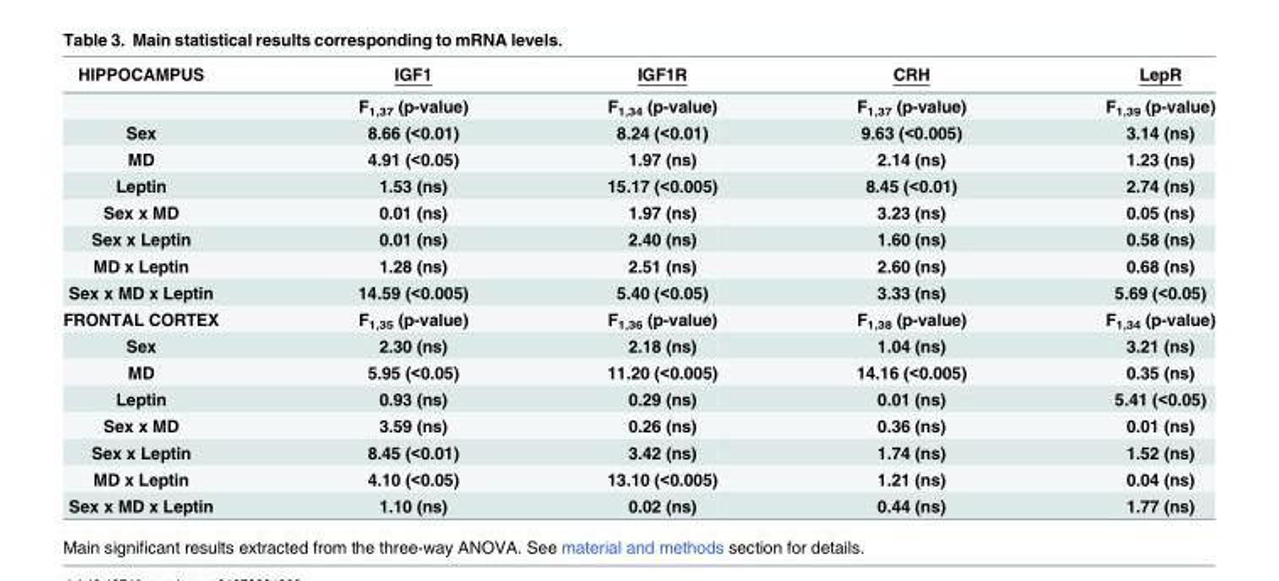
<table><thead><tr><td>HIPPOCAMPUS</td><td>IGF1</td><td>IGF1R</td><td>CRH</td><td>LepR</td></tr></thead><tbody><tr><td></td><td>F<sub>1,37</sub> (p-value)</td><td>F<sub>1,34</sub> (p-value)</td><td>F<sub>1,37</sub> (p-value)</td><td>F<sub>1,39</sub> (p-value)</td></tr><tr><td>Sex</td><td>8.66 (&lt;0.01)</td><td>8.24 (&lt;0.01)</td><td>9.63 (&lt;0.005)</td><td>3.14 (ns)</td></tr><tr><td>MD</td><td>4.91 (&lt;0.05)</td><td>1.97 (ns)</td><td>2.14 (ns)</td><td>1.23 (ns)</td></tr><tr><td>Leptin</td><td>1.53 (ns)</td><td>15.17 (&lt;0.005)</td><td>8.45 (&lt;0.01)</td><td>2.74 (ns)</td></tr><tr><td>Sex x MD</td><td>0.01 (ns)</td><td>1.97 (ns)</td><td>3.23 (ns)</td><td>0.05 (ns)</td></tr><tr><td>Sex x Leptin</td><td>0.01 (ns)</td><td>2.40 (ns)</td><td>1.60 (ns)</td><td>0.58 (ns)</td></tr><tr><td>MD x Leptin</td><td>1.28 (ns)</td><td>2.51 (ns)</td><td>2.60 (ns)</td><td>0.68 (ns)</td></tr><tr><td>Sex x MD x Leptin</td><td>14.59 (&lt;0.005)</td><td>5.40 (&lt;0.05)</td><td>3.33 (ns)</td><td>5.69 (&lt;0.05)</td></tr><tr><td>FRONTAL CORTEX</td><td>F<sub>1,35</sub> (p-value)</td><td>F<sub>1,36</sub> (p-value)</td><td>F<sub>1,38</sub> (p-value)</td><td>F<sub>1,34</sub> (p-value)</td></tr><tr><td>Sex</td><td>2.30 (ns)</td><td>2.18 (ns)</td><td>1.04 (ns)</td><td>3.21 (ns)</td></tr><tr><td>MD</td><td>5.95 (&lt;0.05)</td><td>11.20 (&lt;0.005)</td><td>14.16 (&lt;0.005)</td><td>0.35 (ns)</td></tr><tr><td>Leptin</td><td>0.93 (ns)</td><td>0.29 (ns)</td><td>0.01 (ns)</td><td>5.41 (&lt;0.05)</td></tr><tr><td>Sex x MD</td><td>3.59 (ns)</td><td>0.26 (ns)</td><td>0.36 (ns)</td><td>0.01 (ns)</td></tr><tr><td>Sex x Leptin</td><td>8.45 (&lt;0.01)</td><td>3.42 (ns)</td><td>1.74 (ns)</td><td>1.52 (ns)</td></tr><tr><td>MD x Leptin</td><td>4.10 (&lt;0.05)</td><td>13.10 (&lt;0.005)</td><td>1.21 (ns)</td><td>0.04 (ns)</td></tr><tr><td>Sex x MD x Leptin</td><td>1.10 (ns)</td><td>0.02 (ns)</td><td>0.44 (ns)</td><td>1.77 (ns)</td></tr></tbody></table>